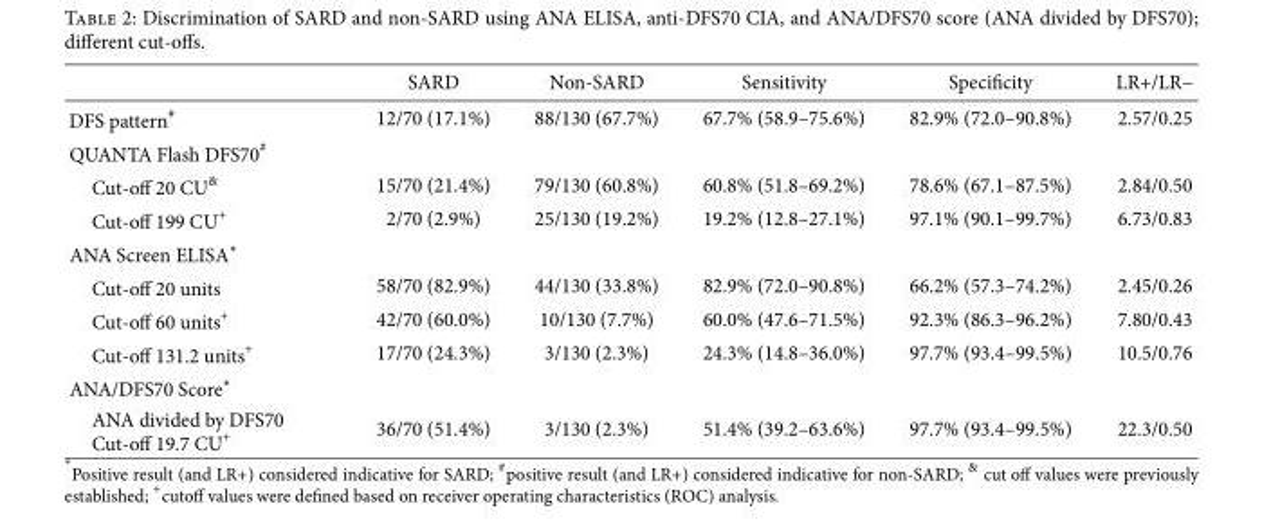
<table><thead><tr><td></td><td>SARD</td><td>Non-SARD</td><td>Sensitivity</td><td>Speci�city</td><td>LR+/LR−</td></tr></thead><tbody><tr><td>DFS pattern<sup>#</sup></td><td>12/70 (17.1%)</td><td>88/130 (67.7%)</td><td>67.7% (58.9–75.6%)</td><td>82.9% (72.0–90.8%)</td><td>2.57/0.25</td></tr><tr><td colspan="6">QUANTA Flash DFS70<sup>#</sup></td></tr><tr><td>Cut-off 20 CU<sup>&amp;</sup></td><td>15/70 (21.4%)</td><td>79/130 (60.8%)</td><td>60.8% (51.8–69.2%)</td><td>78.6% (67.1–87.5%)</td><td>2.84/0.50</td></tr><tr><td>Cut-off 199 CU<sup>+</sup></td><td>2/70 (2.9%)</td><td>25/130 (19.2%)</td><td>19.2% (12.8–27.1%)</td><td>97.1% (90.1–99.7%)</td><td>6.73/0.83</td></tr><tr><td colspan="6">ANA Screen ELISA∗</td></tr><tr><td>Cut-off 20 units</td><td>58/70 (82.9%)</td><td>44/130 (33.8%)</td><td>82.9% (72.0–90.8%)</td><td>66.2% (57.3–74.2%)</td><td>2.45/0.26</td></tr><tr><td>Cut-off 60 units<sup>+</sup></td><td>42/70 (60.0%)</td><td>10/130 (7.7%)</td><td>60.0% (47.6–71.5%)</td><td>92.3% (86.3–96.2%)</td><td>7.80/0.43</td></tr><tr><td>Cut-off 131.2 units<sup>+</sup></td><td>17/70 (24.3%)</td><td>3/130 (2.3%)</td><td>24.3% (14.8–36.0%)</td><td>97.7% (93.4–99.5%)</td><td>10.5/0.76</td></tr><tr><td colspan="6">ANA/DFS70 Score∗</td></tr><tr><td>ANA divided by DFS70 Cut-off 19.7 CU<sup>+</sup></td><td>36/70 (51.4%)</td><td>3/130 (2.3%)</td><td>51.4% (39.2–63.6%)</td><td>97.7% (93.4–99.5%)</td><td>22.3/0.50</td></tr></tbody></table>